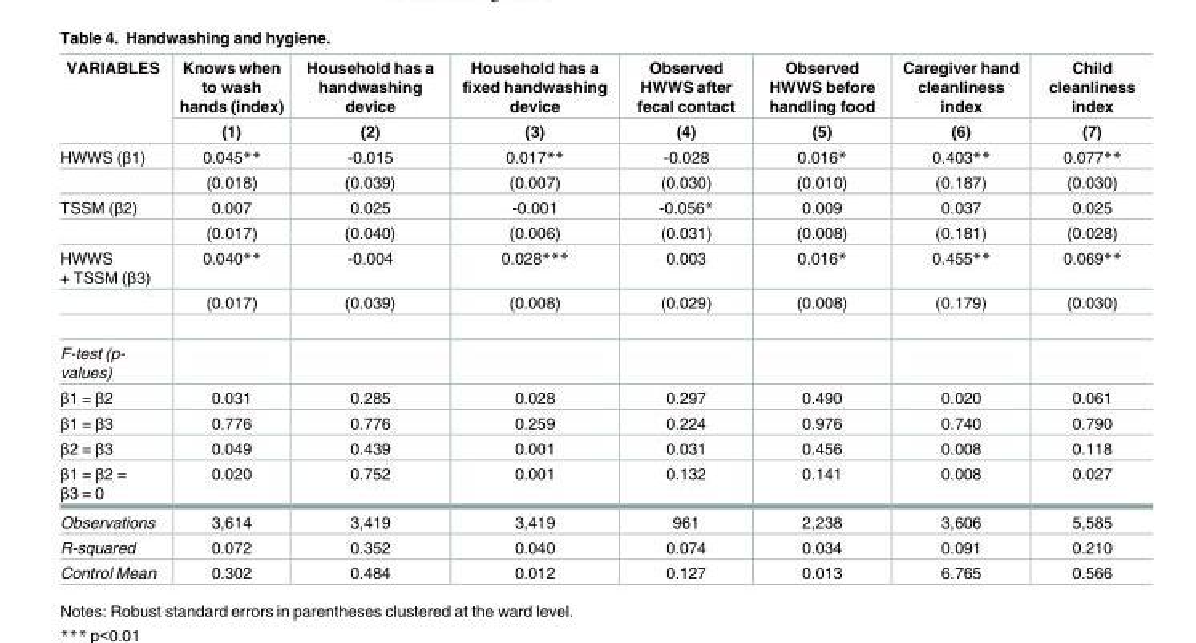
<table><thead><tr><td rowspan="2">VARIABLES</td><td rowspan="2">Knows when to wash hands (index) (1)</td><td rowspan="2">Household has a handwashing device (2)</td><td rowspan="2">Household has a fixed handwashing device (3)</td><td rowspan="2">Observed HWWS after fecal contact (4)</td><td rowspan="2">Observed HWWS before handling food (5)</td><td rowspan="2">Caregiver hand cleanliness index (6)</td><td rowspan="2">Child cleanliness index (7)</td></tr><tr></tr></thead><tbody><tr><td rowspan="2">HWWS (β1)</td><td>0.045**</td><td>-0.015</td><td>0.017**</td><td>-0.028</td><td>0.016*</td><td>0.403**</td><td>0.077**</td></tr><tr><td>(0.018)</td><td>(0.039)</td><td>(0.007)</td><td>(0.030)</td><td>(0.010)</td><td>(0.187)</td><td>(0.030)</td></tr><tr><td rowspan="2">TSSM (β2)</td><td>0.007</td><td>0.025</td><td>-0.001</td><td>-0.056*</td><td>0.009</td><td>0.037</td><td>0.025</td></tr><tr><td>(0.017)</td><td>(0.040)</td><td>(0.006)</td><td>(0.031)</td><td>(0.008)</td><td>(0.181)</td><td>(0.028)</td></tr><tr><td rowspan="2">HWWS + TSSM (β3)</td><td>0.040**</td><td>-0.004</td><td>0.028***</td><td>0.003</td><td>0.016*</td><td>0.455**</td><td>0.069**</td></tr><tr><td>(0.017)</td><td>(0.039)</td><td>(0.008)</td><td>(0.029)</td><td>(0.008)</td><td>(0.179)</td><td>(0.030)</td></tr><tr><td colspan="8">F-test (p- values)</td></tr><tr><td>β1 = β2</td><td>0.031</td><td>0.285</td><td>0.028</td><td>0.297</td><td>0.490</td><td>0.020</td><td>0.061</td></tr><tr><td>β1 = β3</td><td>0.776</td><td>0.776</td><td>0.259</td><td>0.224</td><td>0.976</td><td>0.740</td><td>0.790</td></tr><tr><td>β2 = β3</td><td>0.049</td><td>0.439</td><td>0.001</td><td>0.031</td><td>0.456</td><td>0.008</td><td>0.118</td></tr><tr><td>β1 = β2 = β3 = 0</td><td>0.020</td><td>0.752</td><td>0.001</td><td>0.132</td><td>0.141</td><td>0.008</td><td>0.027</td></tr><tr><td>Observations</td><td>3,614</td><td>3,419</td><td>3,419</td><td>961</td><td>2,238</td><td>3,606</td><td>5,585</td></tr><tr><td>R-squared</td><td>0.072</td><td>0.352</td><td>0.040</td><td>0.074</td><td>0.034</td><td>0.091</td><td>0.210</td></tr><tr><td>Control Mean</td><td>0.302</td><td>0.484</td><td>0.012</td><td>0.127</td><td>0.013</td><td>6.765</td><td>0.566</td></tr></tbody></table>